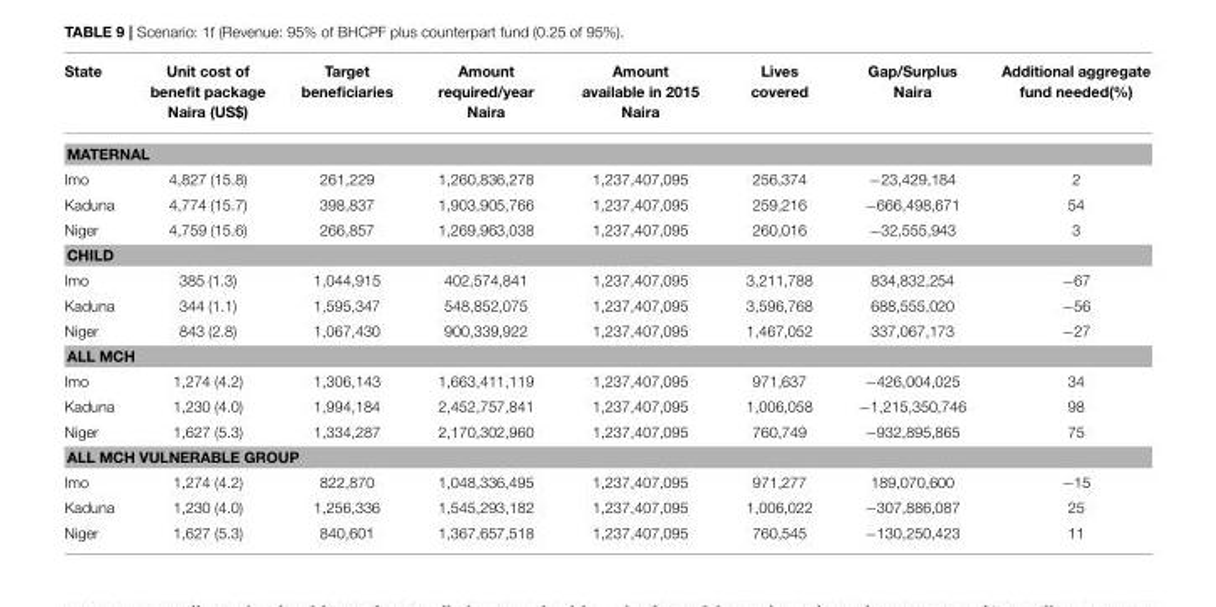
<table><thead><tr><td>State</td><td>Unit cost of benefit package Naira (US$)</td><td>Target beneficiaries</td><td>Amount required/year Naira</td><td>Amount available in 2015 Naira</td><td>Lives covered</td><td>Gap/Surplus Naira</td><td>Additional aggregate fund needed(%)</td></tr></thead><tbody><tr><td colspan="8">MATERNAL</td></tr><tr><td>Imo</td><td>4,827 (15.8)</td><td>261,229</td><td>1,260,836,278</td><td>1,237,407,095</td><td>256,374</td><td>−23,429,184</td><td>2</td></tr><tr><td>Kaduna</td><td>4,774 (15.7)</td><td>398,837</td><td>1,903,905,766</td><td>1,237,407,095</td><td>259,216</td><td>−666,498,671</td><td>54</td></tr><tr><td>Niger</td><td>4,759 (15.6)</td><td>266,857</td><td>1,269,963,038</td><td>1,237,407,095</td><td>260,016</td><td>−32,555,943</td><td>3</td></tr><tr><td colspan="8">CHILD</td></tr><tr><td>Imo</td><td>385 (1.3)</td><td>1,044,915</td><td>402,574,841</td><td>1,237,407,095</td><td>3,211,788</td><td>834,832,254</td><td>−67</td></tr><tr><td>Kaduna</td><td>344 (1.1)</td><td>1,595,347</td><td>548,852,075</td><td>1,237,407,095</td><td>3,596,768</td><td>688,555,020</td><td>−56</td></tr><tr><td>Niger</td><td>843 (2.8)</td><td>1,067,430</td><td>900,339,922</td><td>1,237,407,095</td><td>1,467,052</td><td>337,067,173</td><td>−27</td></tr><tr><td colspan="8">ALL MCH</td></tr><tr><td>Imo</td><td>1,274 (4.2)</td><td>1,306,143</td><td>1,663,411,119</td><td>1,237,407,095</td><td>971,637</td><td>−426,004,025</td><td>34</td></tr><tr><td>Kaduna</td><td>1,230 (4.0)</td><td>1,994,184</td><td>2,452,757,841</td><td>1,237,407,095</td><td>1,006,058</td><td>−1,215,350,746</td><td>98</td></tr><tr><td>Niger</td><td>1,627 (5.3)</td><td>1,334,287</td><td>2,170,302,960</td><td>1,237,407,095</td><td>760,749</td><td>−932,895,865</td><td>75</td></tr><tr><td colspan="8">ALL MCH VULNERABLE GROUP</td></tr><tr><td>Imo</td><td>1,274 (4.2)</td><td>822,870</td><td>1,048,336,495</td><td>1,237,407,095</td><td>971,277</td><td>189,070,600</td><td>−15</td></tr><tr><td>Kaduna</td><td>1,230 (4.0)</td><td>1,256,336</td><td>1,545,293,182</td><td>1,237,407,095</td><td>1,006,022</td><td>−307,886,087</td><td>25</td></tr><tr><td>Niger</td><td>1,627 (5.3)</td><td>840,601</td><td>1,367,657,518</td><td>1,237,407,095</td><td>760,545</td><td>−130,250,423</td><td>11</td></tr></tbody></table>